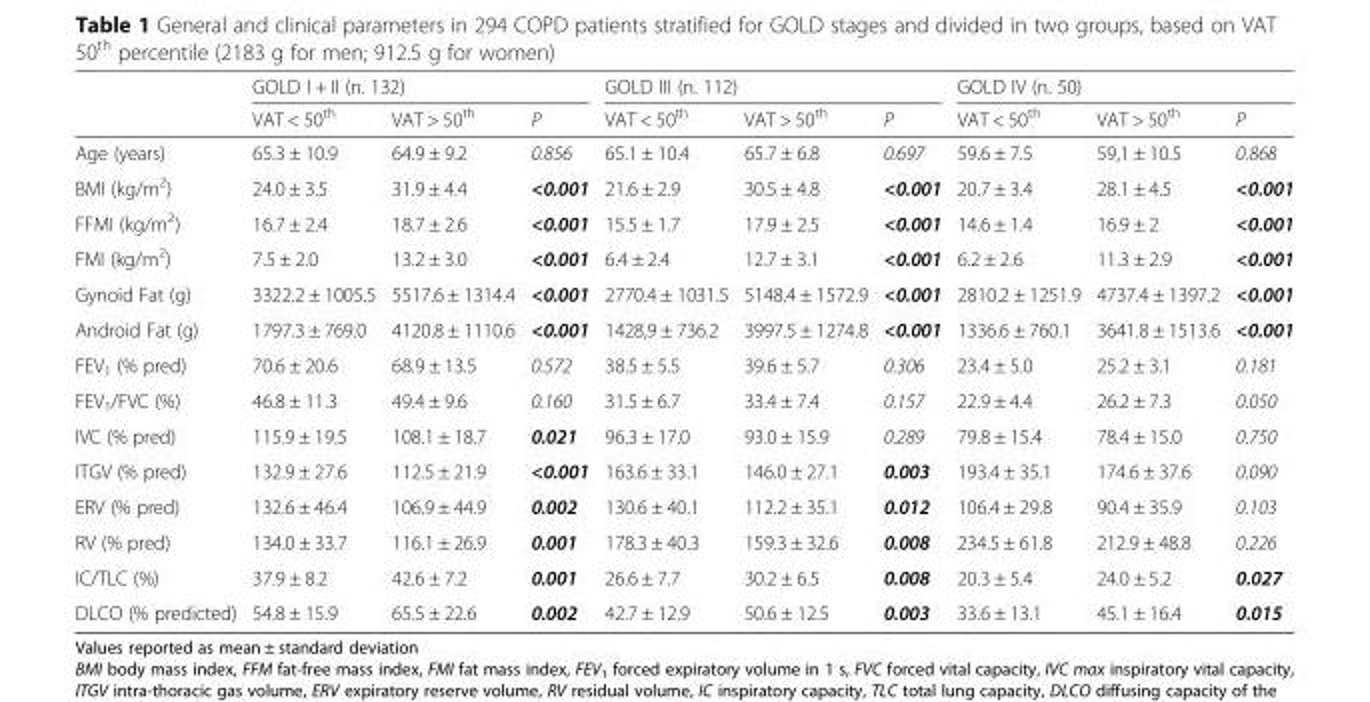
<table><thead><tr><td rowspan="2"></td><td colspan="3">GOLD I + II (n. 132)</td><td colspan="3">GOLD III (n. 112)</td><td colspan="3">GOLD IV (n. 50)</td></tr><tr><td>VAT &lt; 50<sup>th</sup></td><td>VAT &gt; 50<sup>th</sup></td><td>P</td><td>VAT &lt; 50<sup>th</sup></td><td>VAT &gt; 50<sup>th</sup></td><td>P</td><td>VAT &lt; 50<sup>th</sup></td><td>VAT &gt; 50<sup>th</sup></td><td>P</td></tr></thead><tbody><tr><td>Age (years)</td><td>65.3 ± 10.9</td><td>64.9 ± 9.2</td><td>0.856</td><td>65.1 ± 10.4</td><td>65.7 ± 6.8</td><td>0.697</td><td>59.6 ± 7.5</td><td>59,1 ± 10.5</td><td>0.868</td></tr><tr><td>BMI (kg/m<sup>2</sup>)</td><td>24.0 ± 3.5</td><td>31.9 ± 4.4</td><td>&lt;0.001</td><td>21.6 ± 2.9</td><td>30.5 ± 4.8</td><td>&lt;0.001</td><td>20.7 ± 3.4</td><td>28.1 ± 4.5</td><td>&lt;0.001</td></tr><tr><td>FFMI (kg/m<sup>2</sup>)</td><td>16.7 ± 2.4</td><td>18.7 ± 2.6</td><td>&lt;0.001</td><td>15.5 ± 1.7</td><td>17.9 ± 2.5</td><td>&lt;0.001</td><td>14.6 ± 1.4</td><td>16.9 ± 2</td><td>&lt;0.001</td></tr><tr><td>FMI (kg/m<sup>2</sup>)</td><td>7.5 ± 2.0</td><td>13.2 ± 3.0</td><td>&lt;0.001</td><td>6.4 ± 2.4</td><td>12.7 ± 3.1</td><td>&lt;0.001</td><td>6.2 ± 2.6</td><td>11.3 ± 2.9</td><td>&lt;0.001</td></tr><tr><td>Gynoid Fat (g)</td><td>3322.2 ± 1005.5</td><td>5517.6 ± 1314.4</td><td>&lt;0.001</td><td>2770.4 ± 1031.5</td><td>5148.4 ± 1572.9</td><td>&lt;0.001</td><td>2810.2 ± 1251.9</td><td>4737.4 ± 1397.2</td><td>&lt;0.001</td></tr><tr><td>Android Fat (g)</td><td>1797.3 ± 769.0</td><td>4120.8 ± 1110.6</td><td>&lt;0.001</td><td>1428,9 ± 736.2</td><td>3997.5 ± 1274.8</td><td>&lt;0.001</td><td>1336.6 ± 760.1</td><td>3641.8 ± 1513.6</td><td>&lt;0.001</td></tr><tr><td>FEV<sub>1</sub> (% pred)</td><td>70.6 ± 20.6</td><td>68.9 ± 13.5</td><td>0.572</td><td>38.5 ± 5.5</td><td>39.6 ± 5.7</td><td>0.306</td><td>23.4 ± 5.0</td><td>25.2 ± 3.1</td><td>0.181</td></tr><tr><td>FEV<sub>1</sub>/FVC (%)</td><td>46.8 ± 11.3</td><td>49.4 ± 9.6</td><td>0.160</td><td>31.5 ± 6.7</td><td>33.4 ± 7.4</td><td>0.157</td><td>22.9 ± 4.4</td><td>26.2 ± 7.3</td><td>0.050</td></tr><tr><td>IVC (% pred)</td><td>115.9 ± 19.5</td><td>108.1 ± 18.7</td><td>0.021</td><td>96.3 ± 17.0</td><td>93.0 ± 15.9</td><td>0.289</td><td>79.8 ± 15.4</td><td>78.4 ± 15.0</td><td>0.750</td></tr><tr><td>ITGV (% pred)</td><td>132.9 ± 27.6</td><td>112.5 ± 21.9</td><td>&lt;0.001</td><td>163.6 ± 33.1</td><td>146.0 ± 27.1</td><td>0.003</td><td>193.4 ± 35.1</td><td>174.6 ± 37.6</td><td>0.090</td></tr><tr><td>ERV (% pred)</td><td>132.6 ± 46.4</td><td>106.9 ± 44.9</td><td>0.002</td><td>130.6 ± 40.1</td><td>112.2 ± 35.1</td><td>0.012</td><td>106.4 ± 29.8</td><td>90.4 ± 35.9</td><td>0.103</td></tr><tr><td>RV (% pred)</td><td>134.0 ± 33.7</td><td>116.1 ± 26.9</td><td>0.001</td><td>178.3 ± 40.3</td><td>159.3 ± 32.6</td><td>0.008</td><td>234.5 ± 61.8</td><td>212.9 ± 48.8</td><td>0.226</td></tr><tr><td>IC/TLC (%)</td><td>37.9 ± 8.2</td><td>42.6 ± 7.2</td><td>0.001</td><td>26.6 ± 7.7</td><td>30.2 ± 6.5</td><td>0.008</td><td>20.3 ± 5.4</td><td>24.0 ± 5.2</td><td>0.027</td></tr><tr><td>DLCO (% predicted)</td><td>54.8 ± 15.9</td><td>65.5 ± 22.6</td><td>0.002</td><td>42.7 ± 12.9</td><td>50.6 ± 12.5</td><td>0.003</td><td>33.6 ± 13.1</td><td>45.1 ± 16.4</td><td>0.015</td></tr></tbody></table>